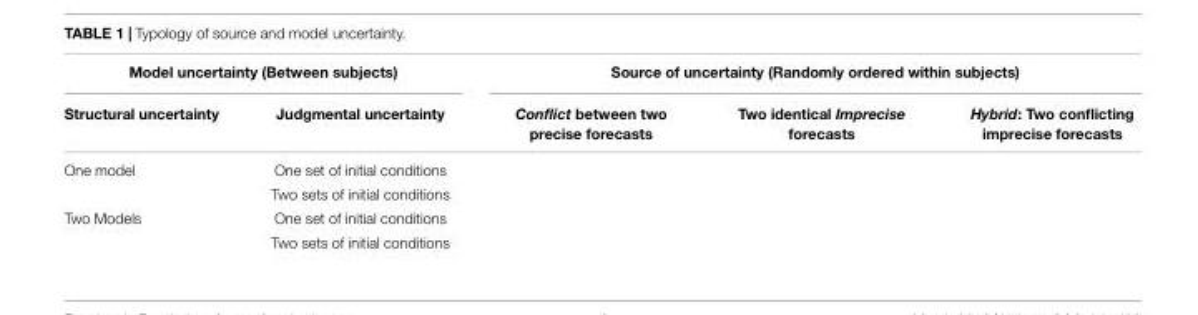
<table><thead><tr><td colspan="2">Model uncertainty (Between subjects)</td><td colspan="3">Source of uncertainty (Randomly ordered within subjects)</td></tr><tr><td>Structural uncertainty</td><td>Judgmental uncertainty</td><td>Conflict between two precise forecasts</td><td>Two identical Imprecise forecasts</td><td>Hybrid: Two conflicting imprecise forecasts</td></tr></thead><tbody><tr><td rowspan="2">One model</td><td>One set of initial conditions</td><td></td><td></td><td></td></tr><tr><td>Two sets of initial conditions</td><td></td><td></td><td></td></tr><tr><td rowspan="2">Two Models</td><td>One set of initial conditions</td><td></td><td></td><td></td></tr><tr><td>Two sets of initial conditions</td><td></td><td></td><td></td></tr></tbody></table>